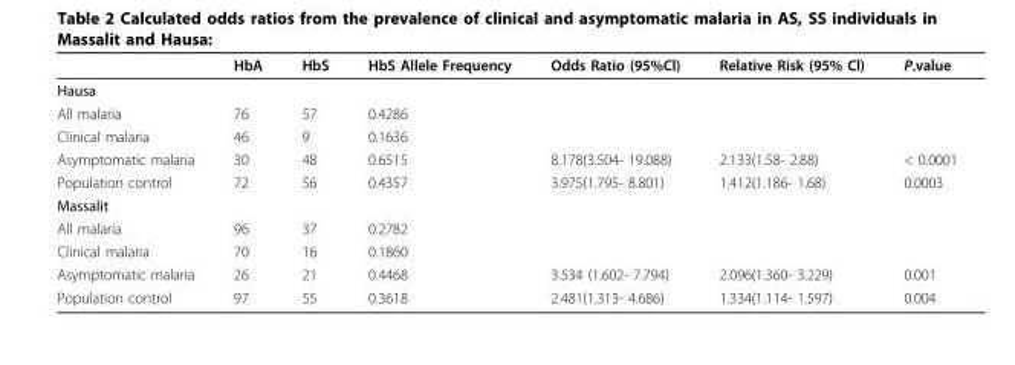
<table><thead><tr><td></td><td>HbA</td><td>HbS</td><td>HbS Allele Frequency</td><td>Odds Ratio (95%Cl)</td><td>Relative Risk (95% Cl)</td><td>P.value</td></tr></thead><tbody><tr><td colspan="7">Hausa</td></tr><tr><td>All malaria</td><td>76</td><td>57</td><td>0.4286</td><td></td><td></td><td></td></tr><tr><td>Clinical malaria</td><td>46</td><td>9</td><td>0.1636</td><td></td><td></td><td></td></tr><tr><td>Asymptomatic malaria</td><td>30</td><td>48</td><td>0.6515</td><td>8.178(3.504- 19.088)</td><td>2.133(1.58- 2.88)</td><td>&lt; 0.0001</td></tr><tr><td>Population control</td><td>72</td><td>56</td><td>0.4357</td><td>3.975(1.795- 8.801)</td><td>1.412(1.186- 1.68)</td><td>0.0003</td></tr><tr><td colspan="7">Massalit</td></tr><tr><td>All malaria</td><td>96</td><td>37</td><td>0.2782</td><td></td><td></td><td></td></tr><tr><td>Clinical malaria</td><td>70</td><td>16</td><td>0.1860</td><td></td><td></td><td></td></tr><tr><td>Asymptomatic malaria</td><td>26</td><td>21</td><td>0.4468</td><td>3.534 (1.602- 7.794)</td><td>2.096(1.360- 3.229)</td><td>0.001</td></tr><tr><td>Population control</td><td>97</td><td>55</td><td>0.3618</td><td>2.481(1.313- 4.686)</td><td>1.334(1.114- 1.597)</td><td>0.004</td></tr></tbody></table>